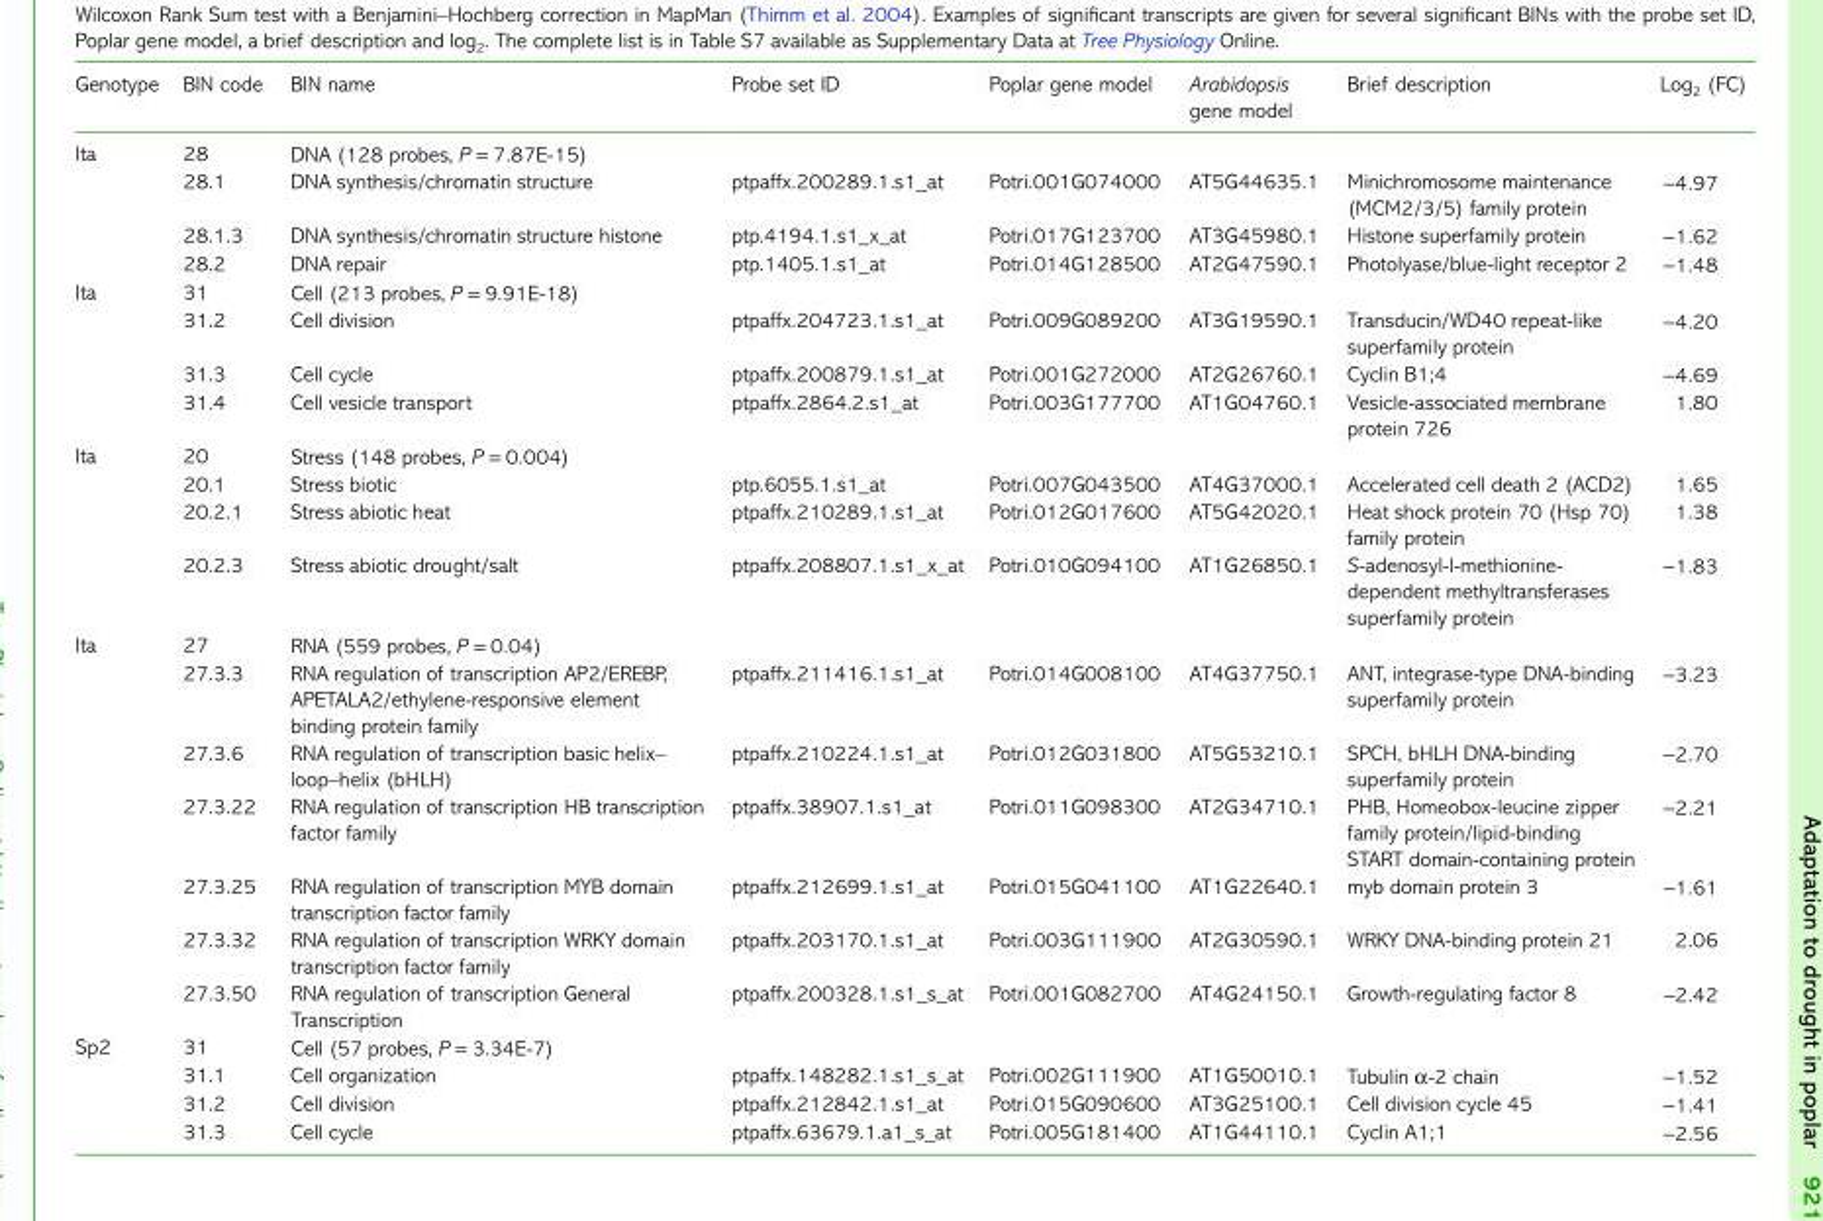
<table><thead><tr><td>Genotype</td><td>BIN code</td><td>BIN name</td><td>Probe set ID</td><td>Poplar gene model</td><td>Arabidopsis gene model</td><td>Brief description</td><td>Log<sub>2</sub> (FC)</td></tr></thead><tbody><tr><td rowspan="4">Ita</td><td>28</td><td>DNA (128 probes, P = 7.87E-15)</td><td></td><td></td><td></td><td></td><td></td></tr><tr><td>28.1</td><td>DNA synthesis/chromatin structure</td><td>ptpaffx.200289.1.s1_at</td><td>Potri.001G074000</td><td>AT5G44635.1</td><td>Minichromosome maintenance (MCM2/3/5) family protein</td><td>−4.97</td></tr><tr><td>28.1.3</td><td>DNA synthesis/chromatin structure histone</td><td>ptp.4194.1.s1_x_at</td><td>Potri.017G123700</td><td>AT3G45980.1</td><td>Histone superfamily protein</td><td>−1.62</td></tr><tr><td>28.2</td><td>DNA repair</td><td>ptp.1405.1.s1_at</td><td>Potri.014G128500</td><td>AT2G47590.1</td><td>Photolyase/blue-light receptor 2</td><td>−1.48</td></tr><tr><td rowspan="4">Ita</td><td>31</td><td>Cell (213 probes, P = 9.91E-18)</td><td></td><td></td><td></td><td></td><td></td></tr><tr><td>31.2</td><td>Cell division</td><td>ptpaffx.204723.1.s1_at</td><td>Potri.009G089200</td><td>AT3G19590.1</td><td>Transducin/WD40 repeat-like superfamily protein</td><td>−4.20</td></tr><tr><td>31.3</td><td>Cell cycle</td><td>ptpaffx.200879.1.s1_at</td><td>Potri.001G272000</td><td>AT2G26760.1</td><td>Cyclin B1;4</td><td>−4.69</td></tr><tr><td>31.4</td><td>Cell vesicle transport</td><td>ptpaffx.2864.2.s1_at</td><td>Potri.003G177700</td><td>AT1G04760.1</td><td>Vesicle-associated membrane protein 726</td><td>1.80</td></tr><tr><td rowspan="4">Ita</td><td>20</td><td>Stress (148 probes, P = 0.004)</td><td></td><td></td><td></td><td></td><td></td></tr><tr><td>20.1</td><td>Stress biotic</td><td>ptp.6055.1.s1_at</td><td>Potri.007G043500</td><td>AT4G37000.1</td><td>Accelerated cell death 2 (ACD2)</td><td>1.65</td></tr><tr><td>20.2.1</td><td>Stress abiotic heat</td><td>ptpaffx.210289.1.s1_at</td><td>Potri.012G017600</td><td>AT5G42020.1</td><td>Heat shock protein 70 (Hsp 70) family protein</td><td>1.38</td></tr><tr><td>20.2.3</td><td>Stress abiotic drought/salt</td><td>ptpaffx.208807.1.s1_x_at</td><td>Potri.010G094100</td><td>AT1G26850.1</td><td>S-adenosyl-l-methionine- dependent methyltransferases superfamily protein</td><td>−1.83</td></tr><tr><td rowspan="7">Ita</td><td>27</td><td>RNA (559 probes, P = 0.04)</td><td></td><td></td><td></td><td></td><td></td></tr><tr><td>27.3.3</td><td>RNA regulation of transcription AP2/EREBP, APETALA2/ethylene-responsive element binding protein family</td><td>ptpaffx.211416.1.s1_at</td><td>Potri.014G008100</td><td>AT4G37750.1</td><td>ANT, integrase-type DNA-binding superfamily protein</td><td>−3.23</td></tr><tr><td>27.3.6</td><td>RNA regulation of transcription basic helix– loop–helix (bHLH)</td><td>ptpaffx.210224.1.s1_at</td><td>Potri.012G031800</td><td>AT5G53210.1</td><td>SPCH, bHLH DNA-binding superfamily protein</td><td>−2.70</td></tr><tr><td>27.3.22</td><td>RNA regulation of transcription HB transcription factor family</td><td>ptpaffx.38907.1.s1_at</td><td>Potri.011G098300</td><td>AT2G34710.1</td><td>PHB, Homeobox-leucine zipper family protein/lipid-binding START domain-containing protein</td><td>−2.21</td></tr><tr><td>27.3.25</td><td>RNA regulation of transcription MYB domain transcription factor family</td><td>ptpaffx.212699.1.s1_at</td><td>Potri.015G041100</td><td>AT1G22640.1</td><td>myb domain protein 3</td><td>−1.61</td></tr><tr><td>27.3.32</td><td>RNA regulation of transcription WRKY domain transcription factor family</td><td>ptpaffx.203170.1.s1_at</td><td>Potri.003G111900</td><td>AT2G30590.1</td><td>WRKY DNA-binding protein 21</td><td>2.06</td></tr><tr><td>27.3.50</td><td>RNA regulation of transcription General Transcription</td><td>ptpaffx.200328.1.s1_s_at</td><td>Potri.001G082700</td><td>AT4G24150.1</td><td>Growth-regulating factor 8</td><td>−2.42</td></tr><tr><td rowspan="4">Sp2</td><td>31</td><td>Cell (57 probes, P = 3.34E-7)</td><td></td><td></td><td></td><td></td><td></td></tr><tr><td>31.1</td><td>Cell organization</td><td>ptpaffx.148282.1.s1_s_at</td><td>Potri.002G111900</td><td>AT1G50010.1</td><td>Tubulin α-2 chain</td><td>−1.52</td></tr><tr><td>31.2</td><td>Cell division</td><td>ptpaffx.212842.1.s1_at</td><td>Potri.015G090600</td><td>AT3G25100.1</td><td>Cell division cycle 45</td><td>−1.41</td></tr><tr><td>31.3</td><td>Cell cycle</td><td>ptpaffx.63679.1.a1_s_at</td><td>Potri.005G181400</td><td>AT1G44110.1</td><td>Cyclin A1;1</td><td>−2.56</td></tr></tbody></table>